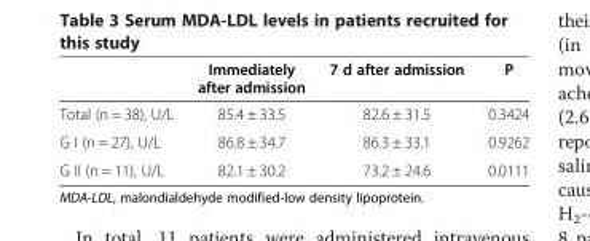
<table><thead><tr><td></td><td>Immediately after admission</td><td>7 d after admission</td><td>P</td></tr></thead><tbody><tr><td>Total (n = 38), U/L</td><td>85.4 ± 33.5</td><td>82.6 ± 31.5</td><td>0.3424</td></tr><tr><td>G I (n = 27), U/L</td><td>86.8 ± 34.7</td><td>86.3 ± 33.1</td><td>0.9262</td></tr><tr><td>G II (n = 11), U/L</td><td>82.1 ± 30.2</td><td>73.2 ± 24.6</td><td>0.0111</td></tr></tbody></table>